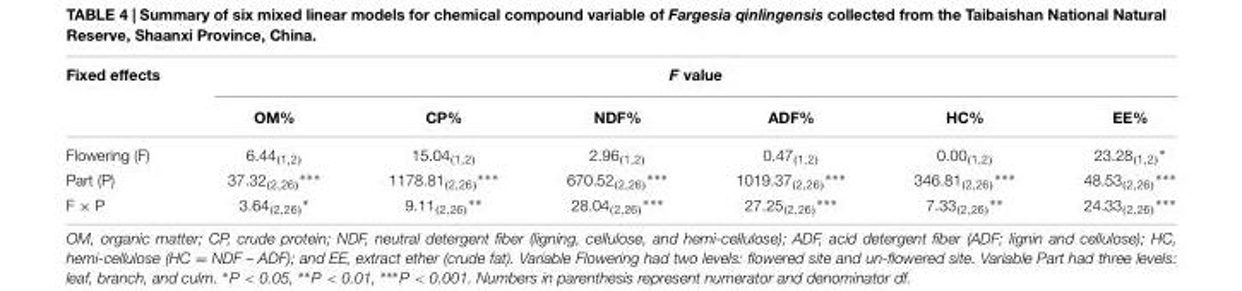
<table><thead><tr><td rowspan="2">Fixed effects</td><td colspan="6">F value</td></tr><tr><td>OM%</td><td>CP%</td><td>NDF%</td><td>ADF%</td><td>HC%</td><td>EE%</td></tr></thead><tbody><tr><td>Flowering (F)</td><td>6.44<sub>(1,2)</sub></td><td>15.04<sub>(1,2)</sub></td><td>2.96<sub>(1,2)</sub></td><td>0.47<sub>(1,2)</sub></td><td>0.00<sub>(1,2)</sub></td><td>23.28<sub>(1,2)</sub>∗</td></tr><tr><td>Part (P)</td><td>37.32<sub>(2,26)</sub>∗∗∗</td><td>1178.81<sub>(2,26)</sub>∗∗∗</td><td>670.52<sub>(2,26)</sub>∗∗∗</td><td>1019.37<sub>(2,26)</sub>∗∗∗</td><td>346.81<sub>(2,26)</sub>∗∗∗</td><td>48.53<sub>(2,26)</sub>∗∗∗</td></tr><tr><td>F × P</td><td>3.64<sub>(2,26)</sub>∗</td><td>9.11<sub>(2,26)</sub>∗∗</td><td>28.04<sub>(2,26)</sub>∗∗∗</td><td>27.25<sub>(2,26)</sub>∗∗∗</td><td>7.33<sub>(2,26)</sub>∗∗</td><td>24.33<sub>(2,26)</sub>∗∗∗</td></tr></tbody></table>